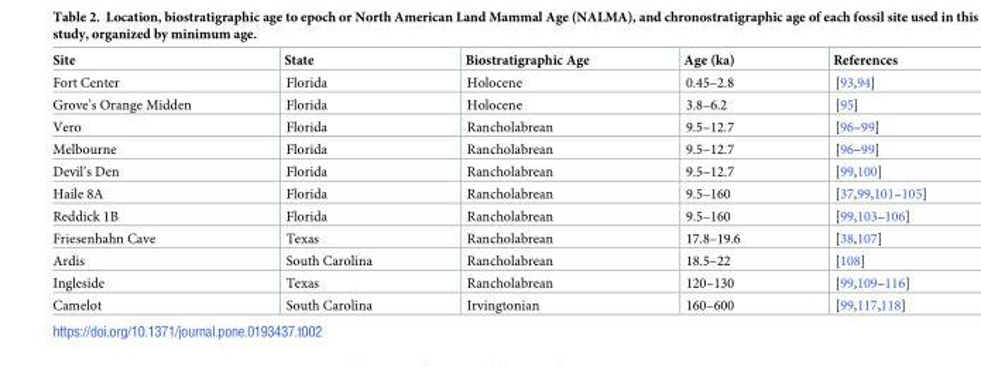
<table><thead><tr><td>Site</td><td>State</td><td>Biostratigraphic Age</td><td>Age (ka)</td><td>References</td></tr></thead><tbody><tr><td>Fort Center</td><td>Florida</td><td>Holocene</td><td>0.45–2.8</td><td>[93,94]</td></tr><tr><td>Grove’s Orange Midden</td><td>Florida</td><td>Holocene</td><td>3.8–6.2</td><td>[95]</td></tr><tr><td>Vero</td><td>Florida</td><td>Rancholabrean</td><td>9.5–12.7</td><td>[96–99]</td></tr><tr><td>Melbourne</td><td>Florida</td><td>Rancholabrean</td><td>9.5–12.7</td><td>[96–99]</td></tr><tr><td>Devil’s Den</td><td>Florida</td><td>Rancholabrean</td><td>9.5–12.7</td><td>[99,100]</td></tr><tr><td>Haile 8A</td><td>Florida</td><td>Rancholabrean</td><td>9.5–160</td><td>[37,99,101–105]</td></tr><tr><td>Reddick 1B</td><td>Florida</td><td>Rancholabrean</td><td>9.5–160</td><td>[99,103–106]</td></tr><tr><td>Friesenhahn Cave</td><td>Texas</td><td>Rancholabrean</td><td>17.8–19.6</td><td>[38,107]</td></tr><tr><td>Ardis</td><td>South Carolina</td><td>Rancholabrean</td><td>18.5–22</td><td>[108]</td></tr><tr><td>Ingleside</td><td>Texas</td><td>Rancholabrean</td><td>120–130</td><td>[99,109–116]</td></tr><tr><td>Camelot</td><td>South Carolina</td><td>Irvingtonian</td><td>160–600</td><td>[99,117,118]</td></tr></tbody></table>